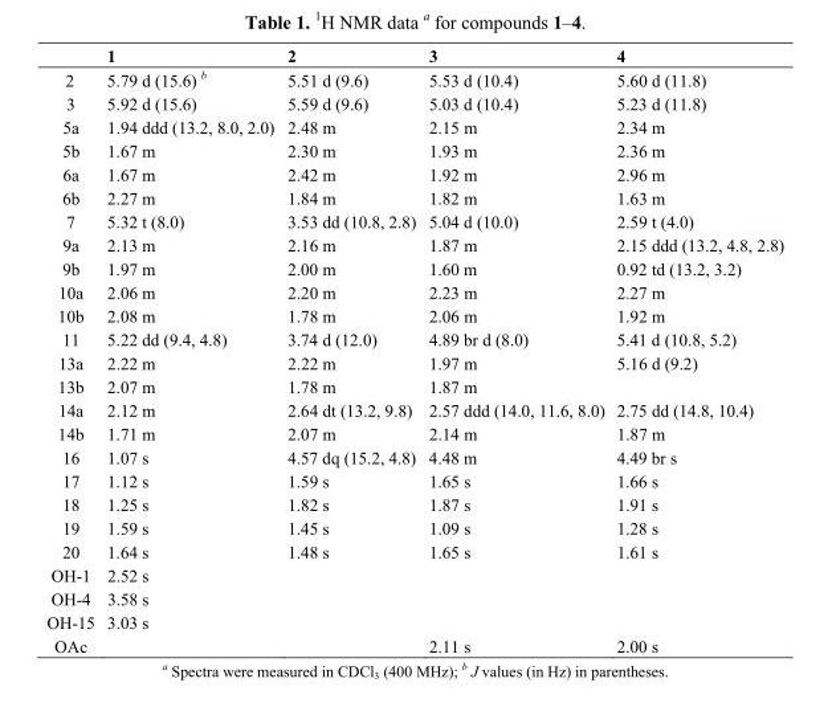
<table><thead><tr><td></td><td>1</td><td>2</td><td>3</td><td>4</td></tr></thead><tbody><tr><td>2</td><td>5.79 d (15.6) <sup>b</sup></td><td>5.51 d (9.6)</td><td>5.53 d (10.4)</td><td>5.60 d (11.8)</td></tr><tr><td>3</td><td>5.92 d (15.6)</td><td>5.59 d (9.6)</td><td>5.03 d (10.4)</td><td>5.23 d (11.8)</td></tr><tr><td>5a</td><td>1.94 ddd (13.2, 8.0, 2.0)</td><td>2.48 m</td><td>2.15 m</td><td>2.34 m</td></tr><tr><td>5b</td><td>1.67 m</td><td>2.30 m</td><td>1.93 m</td><td>2.36 m</td></tr><tr><td>6a</td><td>1.67 m</td><td>2.42 m</td><td>1.92 m</td><td>2.96 m</td></tr><tr><td>6b</td><td>2.27 m</td><td>1.84 m</td><td>1.82 m</td><td>1.63 m</td></tr><tr><td>7</td><td>5.32 t (8.0)</td><td>3.53 dd (10.8, 2.8)</td><td>5.04 d (10.0)</td><td>2.59 t (4.0)</td></tr><tr><td>9a</td><td>2.13 m</td><td>2.16 m</td><td>1.87 m</td><td>2.15 ddd (13.2, 4.8, 2.8)</td></tr><tr><td>9b</td><td>1.97 m</td><td>2.00 m</td><td>1.60 m</td><td>0.92 td (13.2, 3.2)</td></tr><tr><td>10a</td><td>2.06 m</td><td>2.20 m</td><td>2.23 m</td><td>2.27 m</td></tr><tr><td>10b</td><td>2.08 m</td><td>1.78 m</td><td>2.06 m</td><td>1.92 m</td></tr><tr><td>11</td><td>5.22 dd (9.4, 4.8)</td><td>3.74 d (12.0)</td><td>4.89 br d (8.0)</td><td>5.41 d (10.8, 5.2)</td></tr><tr><td>13a</td><td>2.22 m</td><td>2.22 m</td><td>1.97 m</td><td>5.16 d (9.2)</td></tr><tr><td>13b</td><td>2.07 m</td><td>1.78 m</td><td>1.87 m</td><td></td></tr><tr><td>14a</td><td>2.12 m</td><td>2.64 dt (13.2, 9.8)</td><td>2.57 ddd (14.0, 11.6, 8.0)</td><td>2.75 dd (14.8, 10.4)</td></tr><tr><td>14b</td><td>1.71 m</td><td>2.07 m</td><td>2.14 m</td><td>1.87 m</td></tr><tr><td>16</td><td>1.07 s</td><td>4.57 dq (15.2, 4.8)</td><td>4.48 m</td><td>4.49 br s</td></tr><tr><td>17</td><td>1.12 s</td><td>1.59 s</td><td>1.65 s</td><td>1.66 s</td></tr><tr><td>18</td><td>1.25 s</td><td>1.82 s</td><td>1.87 s</td><td>1.91 s</td></tr><tr><td>19</td><td>1.59 s</td><td>1.45 s</td><td>1.09 s</td><td>1.28 s</td></tr><tr><td>20</td><td>1.64 s</td><td>1.48 s</td><td>1.65 s</td><td>1.61 s</td></tr><tr><td>OH-1</td><td>2.52 s</td><td></td><td></td><td></td></tr><tr><td>OH-4</td><td>3.58 s</td><td></td><td></td><td></td></tr><tr><td>OH-15</td><td>3.03 s</td><td></td><td></td><td></td></tr><tr><td>OAc</td><td></td><td></td><td>2.11 s</td><td>2.00 s</td></tr></tbody></table>